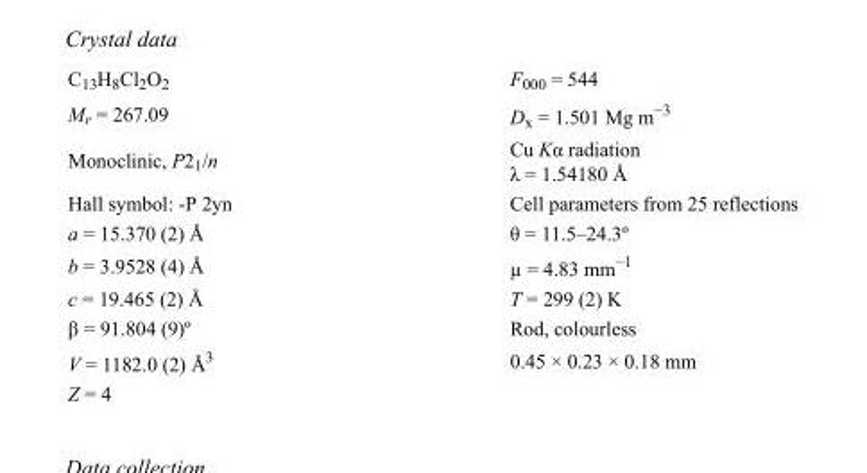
<table><tbody><tr><td>C<sub>13</sub>H<sub>8</sub>Cl<sub>2</sub>O<sub>2</sub></td><td>F<sub>000</sub> = 544</td></tr><tr><td>M<sub>r</sub> = 267.09</td><td>D<sub>x</sub> = 1.501 Mg m<sup>−3</sup></td></tr><tr><td>Monoclinic, P2<sub>1</sub>/n</td><td>Cu Kα radiation λ = 1.54180 Å</td></tr><tr><td>Hall symbol: -P 2yn</td><td>Cell parameters from 25 reflections</td></tr><tr><td>a = 15.370 (2) Å</td><td>θ = 11.5–24.3º</td></tr><tr><td>b = 3.9528 (4) Å</td><td>µ = 4.83 mm<sup>−1</sup></td></tr><tr><td>c = 19.465 (2) Å</td><td>T = 299 (2) K</td></tr><tr><td>β = 91.804 (9)º</td><td>Rod, colourless</td></tr><tr><td>V = 1182.0 (2) Å<sup>3</sup></td><td>0.45 × 0.23 × 0.18 mm</td></tr><tr><td>Z = 4</td><td></td></tr></tbody></table>